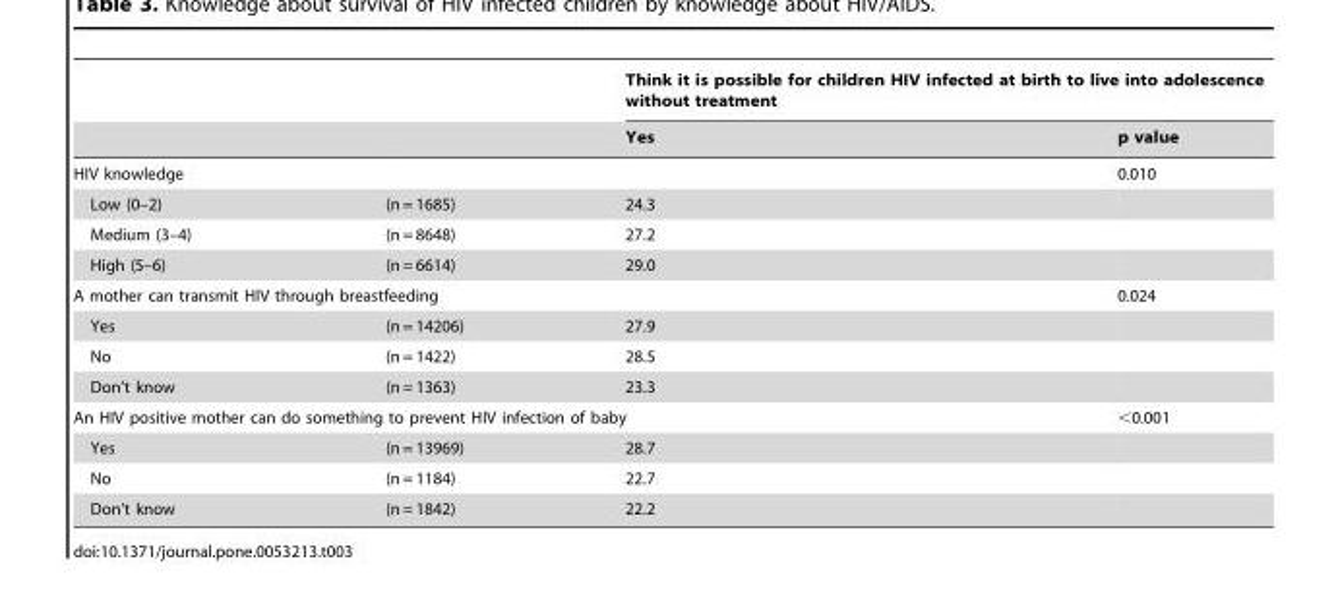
<table><thead><tr><td rowspan="2"></td><td rowspan="2"></td><td colspan="2">Think it is possible for children HIV infected at birth to live into adolescence without treatment</td></tr><tr><td>Yes</td><td>p value</td></tr></thead><tbody><tr><td colspan="2">HIV knowledge</td><td></td><td>0.010</td></tr><tr><td>Low (0–2)</td><td>(n = 1685)</td><td>24.3</td><td></td></tr><tr><td>Medium (3–4)</td><td>(n = 8648)</td><td>27.2</td><td></td></tr><tr><td>High (5–6)</td><td>(n = 6614)</td><td>29.0</td><td></td></tr><tr><td colspan="3">A mother can transmit HIV through breastfeeding</td><td>0.024</td></tr><tr><td>Yes</td><td>(n = 14206)</td><td>27.9</td><td></td></tr><tr><td>No</td><td>(n = 1422)</td><td>28.5</td><td></td></tr><tr><td>Don’t know</td><td>(n = 1363)</td><td>23.3</td><td></td></tr><tr><td colspan="3">An HIV positive mother can do something to prevent HIV infection of baby</td><td>&lt;0.001</td></tr><tr><td>Yes</td><td>(n = 13969)</td><td>28.7</td><td></td></tr><tr><td>No</td><td>(n = 1184)</td><td>22.7</td><td></td></tr><tr><td>Don’t know</td><td>(n = 1842)</td><td>22.2</td><td></td></tr></tbody></table>